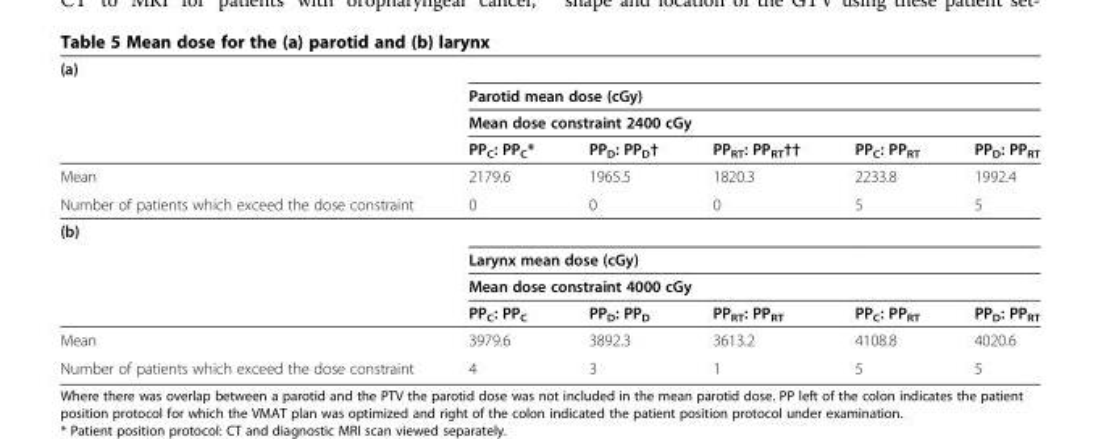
<table><thead><tr><td rowspan="4">(a)</td><td></td><td></td><td></td><td></td><td></td></tr><tr><td rowspan="2" colspan="5">Parotid mean dose (cGy) Mean dose constraint 2400 cGy</td></tr><tr></tr><tr><td>PPC: PPC*</td><td>PP<sub>D</sub>: PP<sub>D</sub>†</td><td>PP<sub>RT</sub>: PP<sub>RT</sub>††</td><td>PP<sub>C</sub>: PP<sub>RT</sub></td><td>PP<sub>D</sub>: PP<sub>RT</sub></td></tr></thead><tbody><tr><td>Mean</td><td>2179.6</td><td>1965.5</td><td>1820.3</td><td>2233.8</td><td>1992.4</td></tr><tr><td>Number of patients which exceed the dose constraint</td><td>0</td><td>0</td><td>0</td><td>5</td><td>5</td></tr><tr><td colspan="6">(b)</td></tr><tr><td rowspan="3"></td><td colspan="5">Larynx mean dose (cGy)</td></tr><tr><td colspan="5">Mean dose constraint 4000 cGy</td></tr><tr><td>PP<sub>C</sub>: PP<sub>C</sub></td><td>PP<sub>D</sub>: PP<sub>D</sub></td><td>PP<sub>RT</sub>: PP<sub>RT</sub></td><td>PP<sub>C</sub>: PP<sub>RT</sub></td><td>PP<sub>D</sub>: PP<sub>RT</sub></td></tr><tr><td>Mean</td><td>3979.6</td><td>3892.3</td><td>3613.2</td><td>4108.8</td><td>4020.6</td></tr><tr><td>Number of patients which exceed the dose constraint</td><td>4</td><td>3</td><td>1</td><td>5</td><td>5</td></tr></tbody></table>